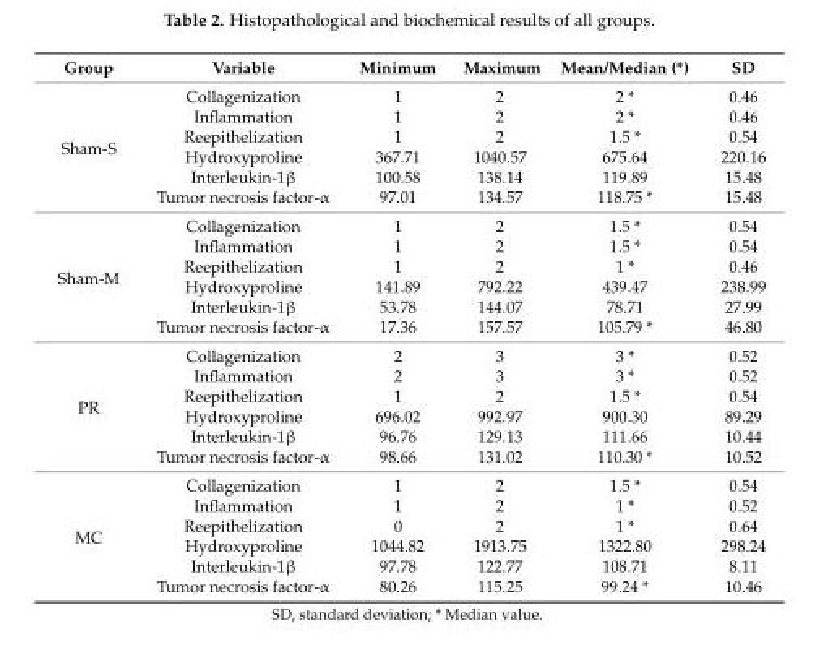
<table><thead><tr><td>Group</td><td>Variable</td><td>Minimum</td><td>Maximum</td><td>Mean/Median (*)</td><td>SD</td></tr></thead><tbody><tr><td rowspan="6">Sham-S</td><td>Collagenization</td><td>1</td><td>2</td><td>2 *</td><td>0.46</td></tr><tr><td>Inflammation</td><td>1</td><td>2</td><td>2 *</td><td>0.46</td></tr><tr><td>Reepithelization</td><td>1</td><td>2</td><td>1.5 *</td><td>0.54</td></tr><tr><td>Hydroxyproline</td><td>367.71</td><td>1040.57</td><td>675.64</td><td>220.16</td></tr><tr><td>Interleukin-1β</td><td>100.58</td><td>138.14</td><td>119.89</td><td>15.48</td></tr><tr><td>Tumor necrosis factor-α</td><td>97.01</td><td>134.57</td><td>118.75 *</td><td>15.48</td></tr><tr><td rowspan="6">Sham-M</td><td>Collagenization</td><td>1</td><td>2</td><td>1.5 *</td><td>0.54</td></tr><tr><td>Inflammation</td><td>1</td><td>2</td><td>1.5 *</td><td>0.54</td></tr><tr><td>Reepithelization</td><td>1</td><td>2</td><td>1 *</td><td>0.46</td></tr><tr><td>Hydroxyproline</td><td>141.89</td><td>792.22</td><td>439.47</td><td>238.99</td></tr><tr><td>Interleukin-1β</td><td>53.78</td><td>144.07</td><td>78.71</td><td>27.99</td></tr><tr><td>Tumor necrosis factor-α</td><td>17.36</td><td>157.57</td><td>105.79 *</td><td>46.80</td></tr><tr><td rowspan="6">PR</td><td>Collagenization</td><td>2</td><td>3</td><td>3 *</td><td>0.52</td></tr><tr><td>Inflammation</td><td>2</td><td>3</td><td>3 *</td><td>0.52</td></tr><tr><td>Reepithelization</td><td>1</td><td>2</td><td>1.5 *</td><td>0.54</td></tr><tr><td>Hydroxyproline</td><td>696.02</td><td>992.97</td><td>900.30</td><td>89.29</td></tr><tr><td>Interleukin-1β</td><td>96.76</td><td>129.13</td><td>111.66</td><td>10.44</td></tr><tr><td>Tumor necrosis factor-α</td><td>98.66</td><td>131.02</td><td>110.30 *</td><td>10.52</td></tr><tr><td rowspan="6">MC</td><td>Collagenization</td><td>1</td><td>2</td><td>1.5 *</td><td>0.54</td></tr><tr><td>Inflammation</td><td>1</td><td>2</td><td>1 *</td><td>0.52</td></tr><tr><td>Reepithelization</td><td>0</td><td>2</td><td>1 *</td><td>0.64</td></tr><tr><td>Hydroxyproline</td><td>1044.82</td><td>1913.75</td><td>1322.80</td><td>298.24</td></tr><tr><td>Interleukin-1β</td><td>97.78</td><td>122.77</td><td>108.71</td><td>8.11</td></tr><tr><td>Tumor necrosis factor-α</td><td>80.26</td><td>115.25</td><td>99.24 *</td><td>10.46</td></tr></tbody></table>